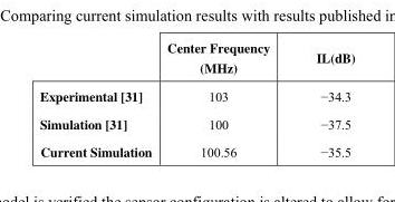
<table><thead><tr><td></td><td>Center Frequency (MHz)</td><td>IL(dB)</td></tr></thead><tbody><tr><td>Experimental [31]</td><td>103</td><td>−34.3</td></tr><tr><td>Simulation [31]</td><td>100</td><td>−37.5</td></tr><tr><td>Current Simulation</td><td>100.56</td><td>−35.5</td></tr></tbody></table>